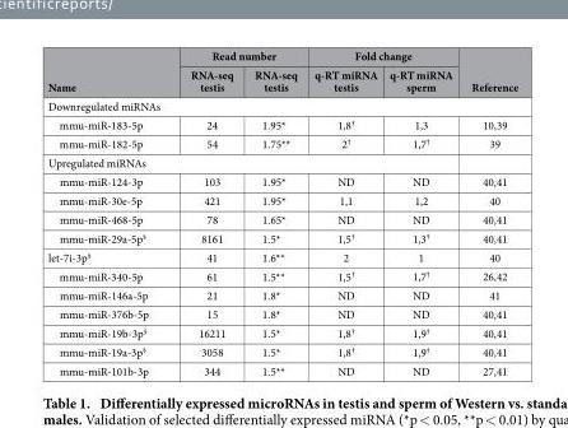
<table><thead><tr><td rowspan="2">Name</td><td colspan="2">Read number</td><td colspan="2">Fold change</td><td rowspan="2">Reference</td></tr><tr><td>RNA-seq testis</td><td>RNA-seq testis</td><td>q-RT miRNA testis</td><td>q-RT miRNA sperm</td></tr></thead><tbody><tr><td colspan="6">Downregulated miRNAs</td></tr><tr><td>mmu-miR-183-5p</td><td>24</td><td>1.95*</td><td>1,8<sup>†</sup></td><td>1,3</td><td>10,39</td></tr><tr><td>mmu-miR-182-5p</td><td>54</td><td>1.75**</td><td>2<sup>†</sup></td><td>1,7<sup>†</sup></td><td>39</td></tr><tr><td colspan="6">Upregulated miRNAs</td></tr><tr><td>mmu-miR-124-3p</td><td>103</td><td>1.95*</td><td>ND</td><td>ND</td><td>40,41</td></tr><tr><td>mmu-miR-30e-5p</td><td>421</td><td>1.95*</td><td>1,1</td><td>1,2</td><td>40</td></tr><tr><td>mmu-miR-468-5p</td><td>78</td><td>1.65*</td><td>ND</td><td>ND</td><td>40,41</td></tr><tr><td>mmu-miR-29a-5p<sup>§</sup></td><td>8161</td><td>1.5*</td><td>1,5<sup>†</sup></td><td>1,3<sup>†</sup></td><td>40,41</td></tr><tr><td>let-7i-3p<sup>§</sup></td><td>41</td><td>1.6**</td><td>2</td><td>1</td><td>40</td></tr><tr><td>mmu-miR-340-5p</td><td>61</td><td>1.5**</td><td>1,5<sup>†</sup></td><td>1,7<sup>†</sup></td><td>26,42</td></tr><tr><td>mmu-miR-146a-5p</td><td>21</td><td>1.8*</td><td>ND</td><td>ND</td><td>41</td></tr><tr><td>mmu-miR-376b-5p</td><td>15</td><td>1.8*</td><td>ND</td><td>ND</td><td>40,41</td></tr><tr><td>mmu-miR-19b-3p<sup>§</sup></td><td>16211</td><td>1.5*</td><td>1,8<sup>†</sup></td><td>1,9<sup>†</sup></td><td>40,41</td></tr><tr><td>mmu-miR-19a-3p<sup>§</sup></td><td>3058</td><td>1.5*</td><td>1,8<sup>†</sup></td><td>1,9<sup>†</sup></td><td>40,41</td></tr><tr><td>mmu-miR-101b-3p</td><td>344</td><td>1.5**</td><td>ND</td><td>ND</td><td>27,41</td></tr></tbody></table>